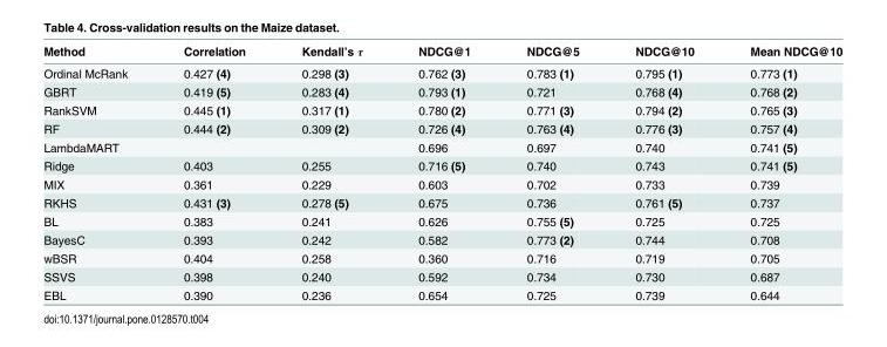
<table><thead><tr><td>Method</td><td>Correlation</td><td>Kendall’s τ</td><td>NDCG@1</td><td>NDCG@5</td><td>NDCG@10</td><td>Mean NDCG@10</td></tr></thead><tbody><tr><td>Ordinal McRank</td><td>0.427 (4)</td><td>0.298 (3)</td><td>0.762 (3)</td><td>0.783 (1)</td><td>0.795 (1)</td><td>0.773 (1)</td></tr><tr><td>GBRT</td><td>0.419 (5)</td><td>0.283 (4)</td><td>0.793 (1)</td><td>0.721</td><td>0.768 (4)</td><td>0.768 (2)</td></tr><tr><td>RankSVM</td><td>0.445 (1)</td><td>0.317 (1)</td><td>0.780 (2)</td><td>0.771 (3)</td><td>0.794 (2)</td><td>0.765 (3)</td></tr><tr><td>RF</td><td>0.444 (2)</td><td>0.309 (2)</td><td>0.726 (4)</td><td>0.763 (4)</td><td>0.776 (3)</td><td>0.757 (4)</td></tr><tr><td>LambdaMART</td><td></td><td></td><td>0.696</td><td>0.697</td><td>0.740</td><td>0.741 (5)</td></tr><tr><td>Ridge</td><td>0.403</td><td>0.255</td><td>0.716 (5)</td><td>0.740</td><td>0.743</td><td>0.741 (5)</td></tr><tr><td>MIX</td><td>0.361</td><td>0.229</td><td>0.603</td><td>0.702</td><td>0.733</td><td>0.739</td></tr><tr><td>RKHS</td><td>0.431 (3)</td><td>0.278 (5)</td><td>0.675</td><td>0.736</td><td>0.761 (5)</td><td>0.737</td></tr><tr><td>BL</td><td>0.383</td><td>0.241</td><td>0.626</td><td>0.755 (5)</td><td>0.725</td><td>0.725</td></tr><tr><td>BayesC</td><td>0.393</td><td>0.242</td><td>0.582</td><td>0.773 (2)</td><td>0.744</td><td>0.708</td></tr><tr><td>wBSR</td><td>0.404</td><td>0.258</td><td>0.360</td><td>0.716</td><td>0.719</td><td>0.705</td></tr><tr><td>SSVS</td><td>0.398</td><td>0.240</td><td>0.592</td><td>0.734</td><td>0.730</td><td>0.687</td></tr><tr><td>EBL</td><td>0.390</td><td>0.236</td><td>0.654</td><td>0.725</td><td>0.739</td><td>0.644</td></tr></tbody></table>